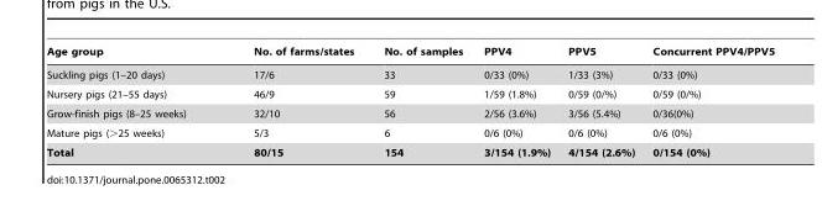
<table><thead><tr><td>Age group</td><td>No. of farms/states</td><td>No. of samples</td><td>PPV4</td><td>PPV5</td><td>Concurrent PPV4/PPV5</td></tr></thead><tbody><tr><td>Suckling pigs (1–20 days)</td><td>17/6</td><td>33</td><td>0/33 (0%)</td><td>1/33 (3%)</td><td>0/33 (0%)</td></tr><tr><td>Nursery pigs (21–55 days)</td><td>46/9</td><td>59</td><td>1/59 (1.8%)</td><td>0/59 (0/%)</td><td>0/59 (0/%)</td></tr><tr><td>Grow-finish pigs (8–25 weeks)</td><td>32/10</td><td>56</td><td>2/56 (3.6%)</td><td>3/56 (5.4%)</td><td>0/36(0%)</td></tr><tr><td>Mature pigs (&gt;25 weeks)</td><td>5/3</td><td>6</td><td>0/6 (0%)</td><td>0/6 (0%)</td><td>0/6 (0%)</td></tr><tr><td>Total</td><td>80/15</td><td>154</td><td>3/154 (1.9%)</td><td>4/154 (2.6%)</td><td>0/154 (0%)</td></tr></tbody></table>